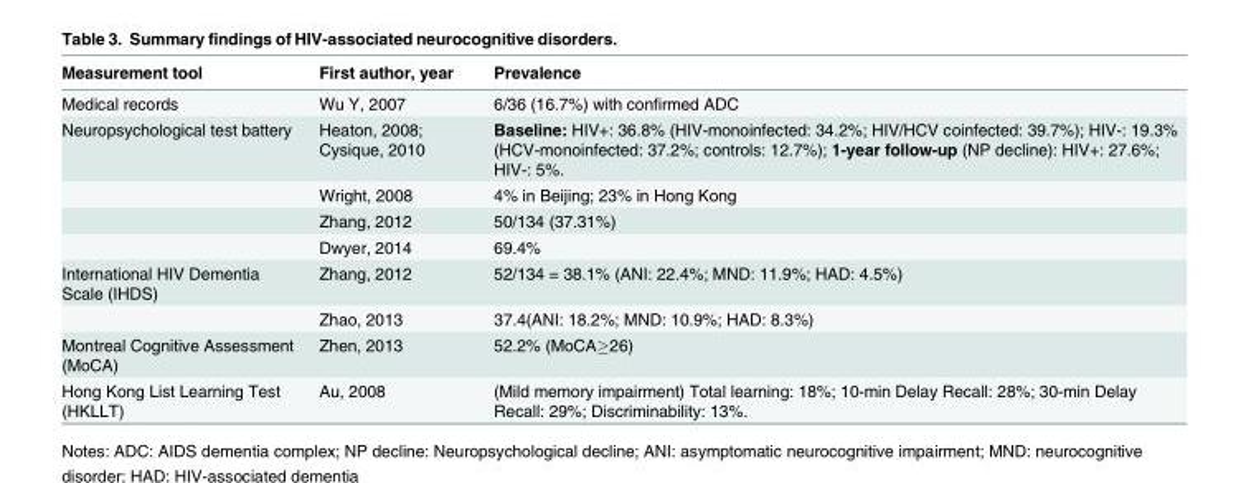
<table><thead><tr><td>Measurement tool</td><td>First author, year</td><td>Prevalence</td></tr></thead><tbody><tr><td>Medical records</td><td>Wu Y, 2007</td><td>6/36 (16.7%) with confirmed ADC</td></tr><tr><td rowspan="4">Neuropsychological test battery</td><td>Heaton, 2008; Cysique, 2010</td><td>Baseline: HIV+: 36.8% (HIV-monoinfected: 34.2%; HIV/HCV coinfected: 39.7%); HIV-: 19.3% (HCV-monoinfected: 37.2%; controls: 12.7%); 1-year follow-up (NP decline): HIV+: 27.6%; HIV-: 5%.</td></tr><tr><td>Wright, 2008</td><td>4% in Beijing; 23% in Hong Kong</td></tr><tr><td>Zhang, 2012</td><td>50/134 (37.31%)</td></tr><tr><td>Dwyer, 2014</td><td>69.4%</td></tr><tr><td rowspan="2">International HIV Dementia Scale (IHDS)</td><td>Zhang, 2012</td><td>52/134 = 38.1% (ANI: 22.4%; MND: 11.9%; HAD: 4.5%)</td></tr><tr><td>Zhao, 2013</td><td>37.4(ANI: 18.2%; MND: 10.9%; HAD: 8.3%)</td></tr><tr><td>Montreal Cognitive Assessment (MoCA)</td><td>Zhen, 2013</td><td>52.2% (MoCA≥26)</td></tr><tr><td>Hong Kong List Learning Test (HKLLT)</td><td>Au, 2008</td><td>(Mild memory impairment) Total learning: 18%; 10-min Delay Recall: 28%; 30-min Delay Recall: 29%; Discriminability: 13%.</td></tr></tbody></table>